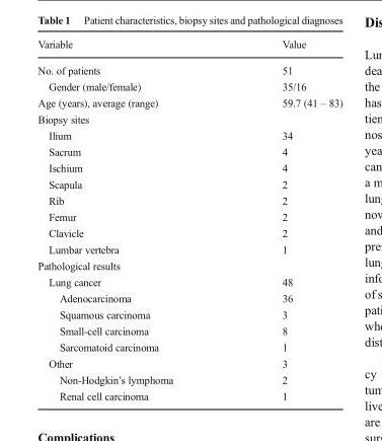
<table><thead><tr><td>Variable</td><td>Value</td></tr></thead><tbody><tr><td>No. of patients</td><td>51</td></tr><tr><td>Gender (male/female)</td><td>35/16</td></tr><tr><td>Age (years), average (range)</td><td>59.7 (41 – 83)</td></tr><tr><td colspan="2">Biopsy sites</td></tr><tr><td>Ilium</td><td>34</td></tr><tr><td>Sacrum</td><td>4</td></tr><tr><td>Ischium</td><td>4</td></tr><tr><td>Scapula</td><td>2</td></tr><tr><td>Rib</td><td>2</td></tr><tr><td>Femur</td><td>2</td></tr><tr><td>Clavicle</td><td>2</td></tr><tr><td>Lumbar vertebra</td><td>1</td></tr><tr><td colspan="2">Pathological results</td></tr><tr><td>Lung cancer</td><td>48</td></tr><tr><td>Adenocarcinoma</td><td>36</td></tr><tr><td>Squamous carcinoma</td><td>3</td></tr><tr><td>Small-cell carcinoma</td><td>8</td></tr><tr><td>Sarcomatoid carcinoma</td><td>1</td></tr><tr><td>Other</td><td>3</td></tr><tr><td>Non-Hodgkin’s lymphoma</td><td>2</td></tr><tr><td>Renal cell carcinoma</td><td>1</td></tr></tbody></table>